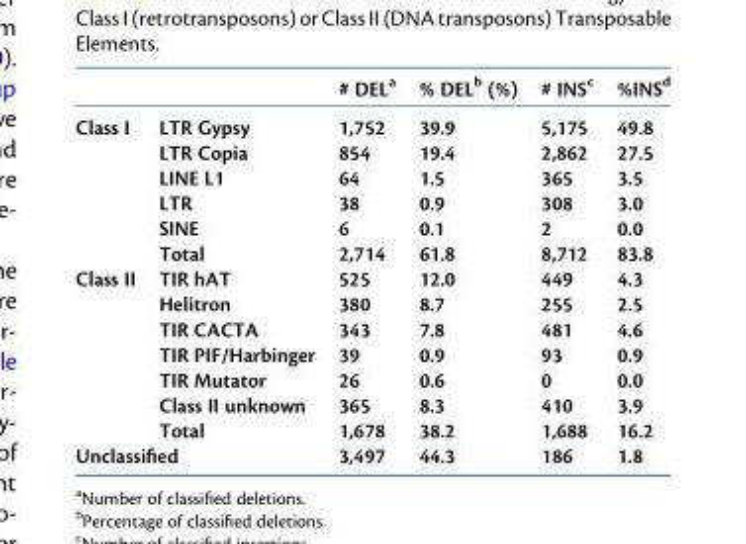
<table><thead><tr><td></td><td></td><td># DEL<sup>a</sup></td><td>% DEL<sup>b</sup> (%)</td><td># INS<sup>c</sup></td><td>%INS<sup>d</sup></td></tr></thead><tbody><tr><td rowspan="6">Class I</td><td>LTR Gypsy</td><td>1,752</td><td>39.9</td><td>5,175</td><td>49.8</td></tr><tr><td>LTR Copia</td><td>854</td><td>19.4</td><td>2,862</td><td>27.5</td></tr><tr><td>LINE L1</td><td>64</td><td>1.5</td><td>365</td><td>3.5</td></tr><tr><td>LTR</td><td>38</td><td>0.9</td><td>308</td><td>3.0</td></tr><tr><td>SINE</td><td>6</td><td>0.1</td><td>2</td><td>0.0</td></tr><tr><td>Total</td><td>2,714</td><td>61.8</td><td>8,712</td><td>83.8</td></tr><tr><td rowspan="7">Class II</td><td>TIR hAT</td><td>525</td><td>12.0</td><td>449</td><td>4.3</td></tr><tr><td>Helitron</td><td>380</td><td>8.7</td><td>255</td><td>2.5</td></tr><tr><td>TIR CACTA</td><td>343</td><td>7.8</td><td>481</td><td>4.6</td></tr><tr><td>TIR PIF/Harbinger</td><td>39</td><td>0.9</td><td>93</td><td>0.9</td></tr><tr><td>TIR Mutator</td><td>26</td><td>0.6</td><td>0</td><td>0.0</td></tr><tr><td>Class II unknown</td><td>365</td><td>8.3</td><td>410</td><td>3.9</td></tr><tr><td>Total</td><td>1,678</td><td>38.2</td><td>1,688</td><td>16.2</td></tr><tr><td colspan="2">Unclassified</td><td>3,497</td><td>44.3</td><td>186</td><td>1.8</td></tr></tbody></table>